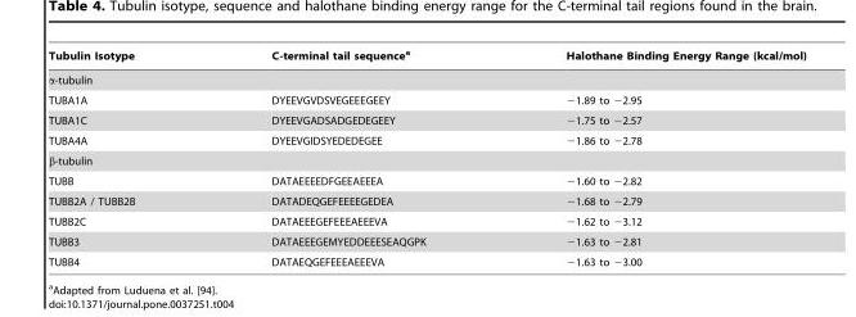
<table><thead><tr><td>Tubulin Isotype</td><td>C-terminal tail sequence<sup>a</sup></td><td>Halothane Binding Energy Range (kcal/mol)</td></tr></thead><tbody><tr><td colspan="3">α-tubulin</td></tr><tr><td>TUBA1A</td><td>DYEEVGVDSVEGEEEGEEY</td><td>−1.89 to −2.95</td></tr><tr><td>TUBA1C</td><td>DYEEVGADSADGEDEGEEY</td><td>−1.75 to −2.57</td></tr><tr><td>TUBA4A</td><td>DYEEVGIDSYEDEDEGEE</td><td>−1.86 to −2.78</td></tr><tr><td colspan="3">β-tubulin</td></tr><tr><td>TUBB</td><td>DATAEEEEDFGEEAEEEA</td><td>−1.60 to −2.82</td></tr><tr><td>TUBB2A / TUBB2B</td><td>DATADEQGEFEEEEGEDEA</td><td>−1.68 to −2.79</td></tr><tr><td>TUBB2C</td><td>DATAEEEGEFEEEAEEEVA</td><td>−1.62 to −3.12</td></tr><tr><td>TUBB3</td><td>DATAEEEGEMYEDDEEESEAQGPK</td><td>−1.63 to −2.81</td></tr><tr><td>TUBB4</td><td>DATAEQGEFEEEAEEEVA</td><td>−1.63 to −3.00</td></tr></tbody></table>